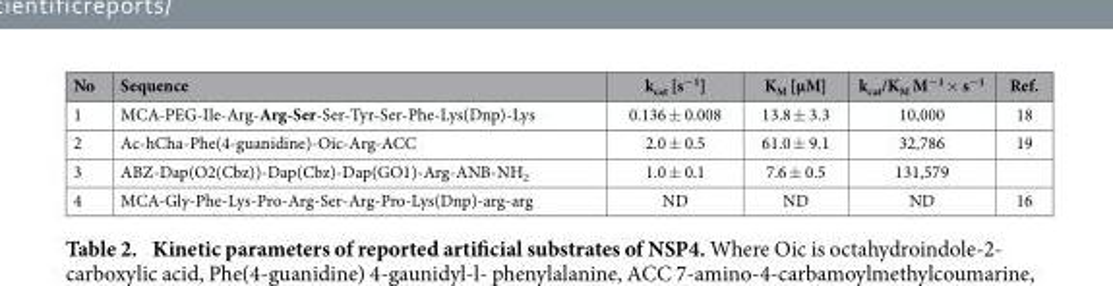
<table><thead><tr><td>No</td><td>Sequence</td><td>k<sub>cat</sub> [s<sup>−1</sup>]</td><td>K<sub>M</sub> [μM]</td><td>k<sub>cat</sub>/K<sub>M</sub> M<sup>−1</sup> × s<sup>−1</sup></td><td>Ref.</td></tr></thead><tbody><tr><td>1</td><td>MCA-PEG-Ile-Arg-Arg-Ser-Ser-Tyr-Ser-Phe-Lys(Dnp)-Lys</td><td>0.136 ± 0.008</td><td>13.8 ± 3.3</td><td>10,000</td><td>18</td></tr><tr><td>2</td><td>Ac-hCha-Phe(4-guanidine)-Oic-Arg-ACC</td><td>2.0 ± 0.5</td><td>61.0 ± 9.1</td><td>32,786</td><td>19</td></tr><tr><td>3</td><td>ABZ-Dap(O2(Cbz))-Dap(Cbz)-Dap(GO1)-Arg-ANB-NH<sub>2</sub></td><td>1.0 ± 0.1</td><td>7.6 ± 0.5</td><td>131,579</td><td></td></tr><tr><td>4</td><td>MCA-Gly-Phe-Lys-Pro-Arg-Ser-Arg-Pro-Lys(Dnp)-arg-arg</td><td>ND</td><td>ND</td><td>ND</td><td>16</td></tr></tbody></table>